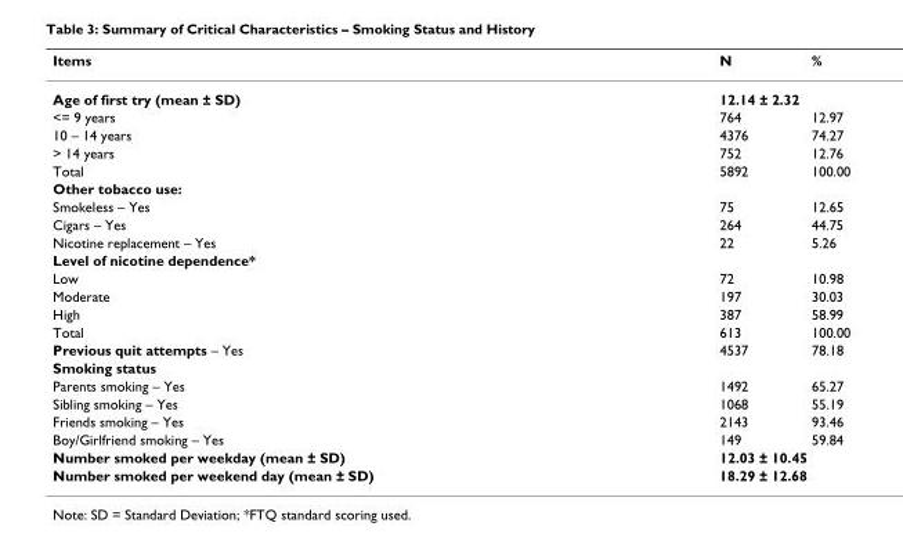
<table><thead><tr><td>Items</td><td>N</td><td>%</td></tr></thead><tbody><tr><td>Age of first try (mean ± SD)</td><td colspan="2">12.14 ± 2.32</td></tr><tr><td>&lt;= 9 years</td><td>764</td><td>12.97</td></tr><tr><td>10 – 14 years</td><td>4376</td><td>74.27</td></tr><tr><td>&gt; 14 years</td><td>752</td><td>12.76</td></tr><tr><td>Total</td><td>5892</td><td>100.00</td></tr><tr><td colspan="3">Other tobacco use:</td></tr><tr><td>Smokeless – Yes</td><td>75</td><td>12.65</td></tr><tr><td>Cigars – Yes</td><td>264</td><td>44.75</td></tr><tr><td>Nicotine replacement – Yes</td><td>22</td><td>5.26</td></tr><tr><td colspan="3">Level of nicotine dependence*</td></tr><tr><td>Low</td><td>72</td><td>10.98</td></tr><tr><td>Moderate</td><td>197</td><td>30.03</td></tr><tr><td>High</td><td>387</td><td>58.99</td></tr><tr><td>Total</td><td>613</td><td>100.00</td></tr><tr><td>Previous quit attempts – Yes</td><td>4537</td><td>78.18</td></tr><tr><td colspan="3">Smoking status</td></tr><tr><td>Parents smoking – Yes</td><td>1492</td><td>65.27</td></tr><tr><td>Sibling smoking – Yes</td><td>1068</td><td>55.19</td></tr><tr><td>Friends smoking – Yes</td><td>2143</td><td>93.46</td></tr><tr><td>Boy/Girlfriend smoking – Yes</td><td>149</td><td>59.84</td></tr><tr><td>Number smoked per weekday (mean ± SD)</td><td colspan="2">12.03 ± 10.45</td></tr><tr><td>Number smoked per weekend day (mean ± SD)</td><td colspan="2">18.29 ± 12.68</td></tr></tbody></table>